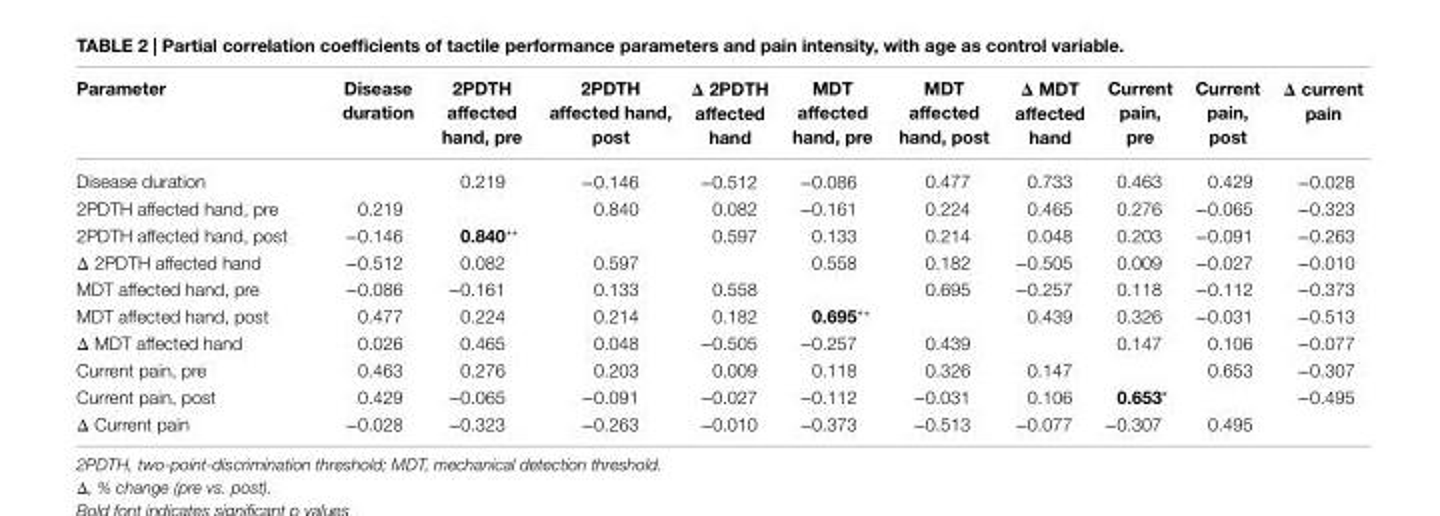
<table><thead><tr><td>Parameter</td><td>Disease duration</td><td>2PDTh affected hand, pre</td><td>2PDTh affected hand, post</td><td>Δ 2PDTh affected hand</td><td>MDT affected hand, pre</td><td>MDT affected hand, post</td><td>Δ MDT affected hand</td><td>current pain, pre</td><td>current pain, post</td><td>Δ current pain</td></tr></thead><tbody><tr><td>Disease duration</td><td></td><td>0.219</td><td>−0.146</td><td>−0.512</td><td>−0.086</td><td>0.477</td><td>0.733</td><td>0.463</td><td>0.429</td><td>−0.028</td></tr><tr><td>2PDTH affected hand, pre</td><td>0.219</td><td></td><td>0.840</td><td>0.082</td><td>−0.161</td><td>0.224</td><td>0.465</td><td>0.276</td><td>−0.065</td><td>−0.323</td></tr><tr><td>2PDTH affected hand, post</td><td>−0.146</td><td>0.840**</td><td></td><td>0.597</td><td>0.133</td><td>0.214</td><td>0.048</td><td>0.203</td><td>−0.091</td><td>−0.263</td></tr><tr><td>Δ 2PDTH affected hand</td><td>−0.512</td><td>0.082</td><td>0.597</td><td></td><td>0.558</td><td>0.182</td><td>−0.505</td><td>0.009</td><td>−0.027</td><td>−0.010</td></tr><tr><td>MDT affected hand, pre</td><td>−0.086</td><td>−0.161</td><td>0.133</td><td>0.558</td><td></td><td>0.695</td><td>−0.257</td><td>0.118</td><td>−0.112</td><td>−0.373</td></tr><tr><td>MDT affected hand, post</td><td>0.477</td><td>0.224</td><td>0.214</td><td>0.182</td><td>0.695**</td><td></td><td>0.439</td><td>0.326</td><td>−0.031</td><td>−0.513</td></tr><tr><td>Δ MDT affected hand</td><td>0.026</td><td>0.465</td><td>0.048</td><td>−0.505</td><td>−0.257</td><td>0.439</td><td></td><td>0.147</td><td>0.106</td><td>−0.077</td></tr><tr><td>Current pain, pre</td><td>0.463</td><td>0.276</td><td>0.203</td><td>0.009</td><td>0.118</td><td>0.326</td><td>0.147</td><td></td><td>0.653</td><td>−0.307</td></tr><tr><td>Current pain, post</td><td>0.429</td><td>−0.065</td><td>−0.091</td><td>−0.027</td><td>−0.112</td><td>−0.031</td><td>0.106</td><td>0.653*</td><td></td><td>−0.495</td></tr><tr><td>Δ Current pain</td><td>−0.028</td><td>−0.323</td><td>−0.263</td><td>−0.010</td><td>−0.373</td><td>−0.513</td><td>−0.077</td><td>−0.307</td><td>0.495</td><td></td></tr></tbody></table>